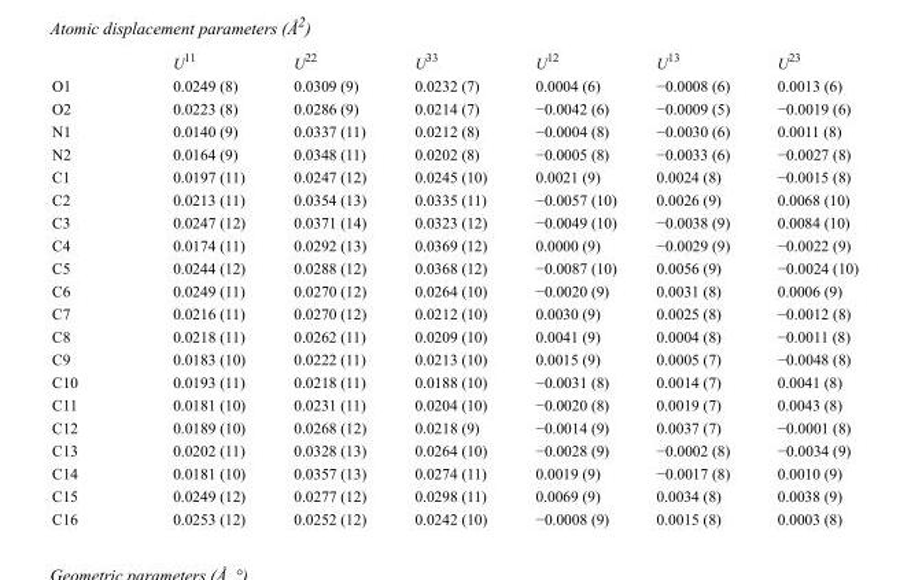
<table><thead><tr><td></td><td>U<sup>11</sup></td><td>U<sup>22</sup></td><td>U<sup>33</sup></td><td>U<sup>12</sup></td><td>U<sup>13</sup></td><td>U<sup>23</sup></td></tr></thead><tbody><tr><td>O1</td><td>0.0249 (8)</td><td>0.0309 (9)</td><td>0.0232 (7)</td><td>0.0004 (6)</td><td>−0.0008 (6)</td><td>0.0013 (6)</td></tr><tr><td>O2</td><td>0.0223 (8)</td><td>0.0286 (9)</td><td>0.0214 (7)</td><td>−0.0042 (6)</td><td>−0.0009 (5)</td><td>−0.0019 (6)</td></tr><tr><td>N1</td><td>0.0140 (9)</td><td>0.0337 (11)</td><td>0.0212 (8)</td><td>−0.0004 (8)</td><td>−0.0030 (6)</td><td>0.0011 (8)</td></tr><tr><td>N2</td><td>0.0164 (9)</td><td>0.0348 (11)</td><td>0.0202 (8)</td><td>−0.0005 (8)</td><td>−0.0033 (6)</td><td>−0.0027 (8)</td></tr><tr><td>C1</td><td>0.0197 (11)</td><td>0.0247 (12)</td><td>0.0245 (10)</td><td>0.0021 (9)</td><td>0.0024 (8)</td><td>−0.0015 (8)</td></tr><tr><td>C2</td><td>0.0213 (11)</td><td>0.0354 (13)</td><td>0.0335 (11)</td><td>−0.0057 (10)</td><td>0.0026 (9)</td><td>0.0068 (10)</td></tr><tr><td>C3</td><td>0.0247 (12)</td><td>0.0371 (14)</td><td>0.0323 (12)</td><td>−0.0049 (10)</td><td>−0.0038 (9)</td><td>0.0084 (10)</td></tr><tr><td>C4</td><td>0.0174 (11)</td><td>0.0292 (13)</td><td>0.0369 (12)</td><td>0.0000 (9)</td><td>−0.0029 (9)</td><td>−0.0022 (9)</td></tr><tr><td>C5</td><td>0.0244 (12)</td><td>0.0288 (12)</td><td>0.0368 (12)</td><td>−0.0087 (10)</td><td>0.0056 (9)</td><td>−0.0024 (10)</td></tr><tr><td>C6</td><td>0.0249 (11)</td><td>0.0270 (12)</td><td>0.0264 (10)</td><td>−0.0020 (9)</td><td>0.0031 (8)</td><td>0.0006 (9)</td></tr><tr><td>C7</td><td>0.0216 (11)</td><td>0.0270 (12)</td><td>0.0212 (10)</td><td>0.0030 (9)</td><td>0.0025 (8)</td><td>−0.0012 (8)</td></tr><tr><td>C8</td><td>0.0218 (11)</td><td>0.0262 (11)</td><td>0.0209 (10)</td><td>0.0041 (9)</td><td>0.0004 (8)</td><td>−0.0011 (8)</td></tr><tr><td>C9</td><td>0.0183 (10)</td><td>0.0222 (11)</td><td>0.0213 (10)</td><td>0.0015 (9)</td><td>0.0005 (7)</td><td>−0.0048 (8)</td></tr><tr><td>C10</td><td>0.0193 (11)</td><td>0.0218 (11)</td><td>0.0188 (10)</td><td>−0.0031 (8)</td><td>0.0014 (7)</td><td>0.0041 (8)</td></tr><tr><td>C11</td><td>0.0181 (10)</td><td>0.0231 (11)</td><td>0.0204 (10)</td><td>−0.0020 (8)</td><td>0.0019 (7)</td><td>0.0043 (8)</td></tr><tr><td>C12</td><td>0.0189 (10)</td><td>0.0268 (12)</td><td>0.0218 (9)</td><td>−0.0014 (9)</td><td>0.0037 (7)</td><td>−0.0001 (8)</td></tr><tr><td>C13</td><td>0.0202 (11)</td><td>0.0328 (13)</td><td>0.0264 (10)</td><td>−0.0028 (9)</td><td>−0.0002 (8)</td><td>−0.0034 (9)</td></tr><tr><td>C14</td><td>0.0181 (10)</td><td>0.0357 (13)</td><td>0.0274 (11)</td><td>0.0019 (9)</td><td>−0.0017 (8)</td><td>0.0010 (9)</td></tr><tr><td>C15</td><td>0.0249 (12)</td><td>0.0277 (12)</td><td>0.0298 (11)</td><td>0.0069 (9)</td><td>0.0034 (8)</td><td>0.0038 (9)</td></tr><tr><td>C16</td><td>0.0253 (12)</td><td>0.0252 (12)</td><td>0.0242 (10)</td><td>−0.0008 (9)</td><td>0.0015 (8)</td><td>0.0003 (8)</td></tr></tbody></table>